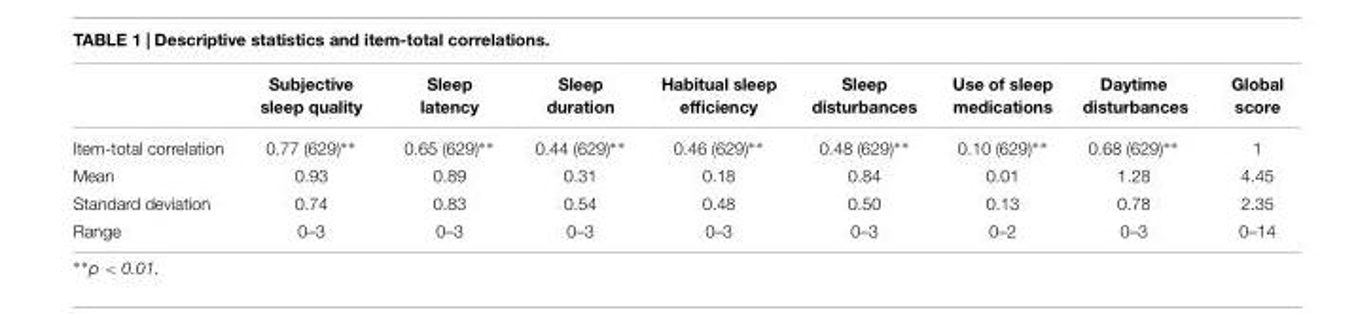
<table><thead><tr><td></td><td>Subjective sleep quality</td><td>Sleep latency</td><td>Sleep duration</td><td>Habitual sleep efficiency</td><td>Sleep disturbances</td><td>Use of sleep medications</td><td>Daytime disturbances</td><td>Global score</td></tr></thead><tbody><tr><td>Item-total correlation</td><td>0.77 (629)∗∗</td><td>0.65 (629)∗∗</td><td>0.44 (629)∗∗</td><td>0.46 (629)∗∗</td><td>0.48 (629)∗∗</td><td>0.10 (629)∗∗</td><td>0.68 (629)∗∗</td><td>1</td></tr><tr><td>Mean</td><td>0.93</td><td>0.89</td><td>0.31</td><td>0.18</td><td>0.84</td><td>0.01</td><td>1.28</td><td>4.45</td></tr><tr><td>Standard deviation</td><td>0.74</td><td>0.83</td><td>0.54</td><td>0.48</td><td>0.50</td><td>0.13</td><td>0.78</td><td>2.35</td></tr><tr><td>Range</td><td>0–3</td><td>0–3</td><td>0–3</td><td>0–3</td><td>0–3</td><td>0–2</td><td>0–3</td><td>0–14</td></tr></tbody></table>